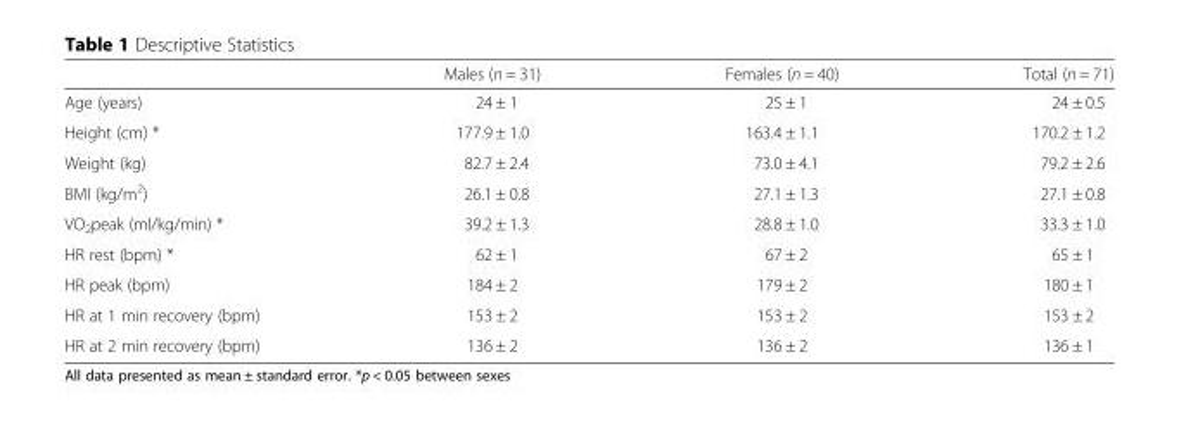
<table><thead><tr><td></td><td>Males (n = 31)</td><td>Females (n = 40)</td><td>Total (n = 71)</td></tr></thead><tbody><tr><td>Age (years)</td><td>24 ± 1</td><td>25 ± 1</td><td>24 ± 0.5</td></tr><tr><td>Height (cm) *</td><td>177.9 ± 1.0</td><td>163.4 ± 1.1</td><td>170.2 ± 1.2</td></tr><tr><td>Weight (kg)</td><td>82.7 ± 2.4</td><td>73.0 ± 4.1</td><td>79.2 ± 2.6</td></tr><tr><td>BMI (kg/m<sup>2</sup>)</td><td>26.1 ± 0.8</td><td>27.1 ± 1.3</td><td>27.1 ± 0.8</td></tr><tr><td>VO<sub>2</sub>peak (ml/kg/min) *</td><td>39.2 ± 1.3</td><td>28.8 ± 1.0</td><td>33.3 ± 1.0</td></tr><tr><td>HR rest (bpm) *</td><td>62 ± 1</td><td>67 ± 2</td><td>65 ± 1</td></tr><tr><td>HR peak (bpm)</td><td>184 ± 2</td><td>179 ± 2</td><td>180 ± 1</td></tr><tr><td>HR at 1 min recovery (bpm)</td><td>153 ± 2</td><td>153 ± 2</td><td>153 ± 2</td></tr><tr><td>HR at 2 min recovery (bpm)</td><td>136 ± 2</td><td>136 ± 2</td><td>136 ± 1</td></tr></tbody></table>